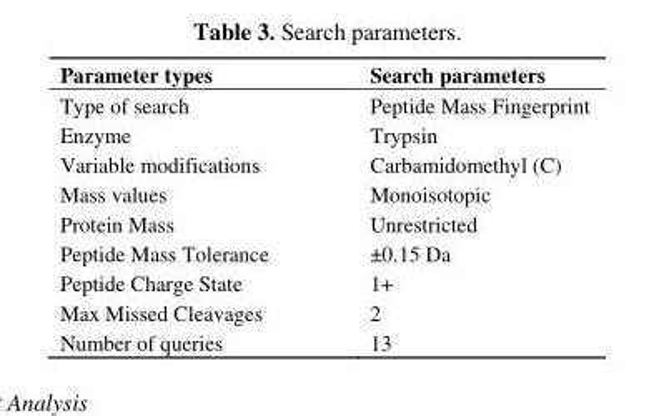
<table><thead><tr><td>Parameter types</td><td>Search parameters</td></tr></thead><tbody><tr><td>Type of search</td><td>Peptide Mass Fingerprint</td></tr><tr><td>Enzyme</td><td>Trypsin</td></tr><tr><td>Variable modifications</td><td>Carbamidomethyl (C)</td></tr><tr><td>Mass values</td><td>Monoisotopic</td></tr><tr><td>Protein Mass</td><td>Unrestricted</td></tr><tr><td>Peptide Mass Tolerance</td><td>±0.15 Da</td></tr><tr><td>Peptide Charge State</td><td>1+</td></tr><tr><td>Max Missed Cleavages</td><td>2</td></tr><tr><td>Number of queries</td><td>13</td></tr></tbody></table>